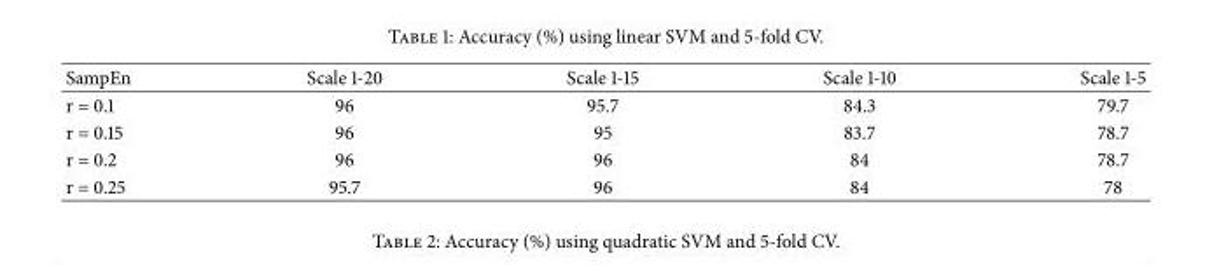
<table><thead><tr><td>SampEn</td><td>Scale 1-20</td><td>Scale 1-15</td><td>Scale 1-10</td><td>Scale 1-5</td></tr></thead><tbody><tr><td>r = 0.1</td><td>96</td><td>95.7</td><td>84.3</td><td>79.7</td></tr><tr><td>r = 0.15</td><td>96</td><td>95</td><td>83.7</td><td>78.7</td></tr><tr><td>r = 0.2</td><td>96</td><td>96</td><td>84</td><td>78.7</td></tr><tr><td>r = 0.25</td><td>95.7</td><td>96</td><td>84</td><td>78</td></tr></tbody></table>